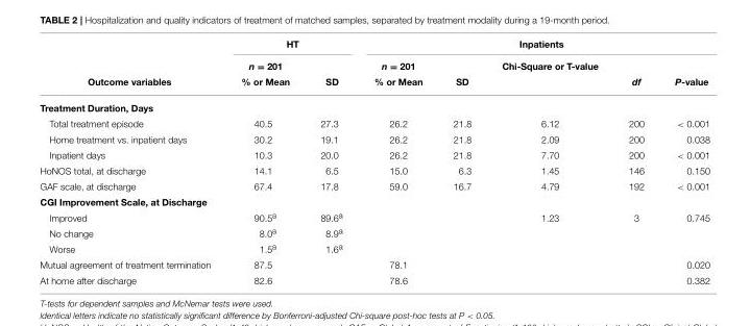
<table><thead><tr><td rowspan="3">Outcome variables</td><td colspan="2">HT</td><td colspan="5">Inpatients</td></tr><tr><td rowspan="2">n = 201 % or Mean</td><td rowspan="2">SD</td><td rowspan="2">n = 201 % or Mean</td><td rowspan="2">SD</td><td rowspan="2">Chi-Square or T-value</td><td rowspan="2">df</td><td rowspan="2">P-value</td></tr><tr></tr></thead><tbody><tr><td colspan="8">Treatment Duration, Days</td></tr><tr><td>Total treatment episode</td><td>40.5</td><td>27.3</td><td>26.2</td><td>21.8</td><td>6.12</td><td>200</td><td>&lt; 0.001</td></tr><tr><td>Home treatment vs. inpatient days</td><td>30.2</td><td>19.1</td><td>26.2</td><td>21.8</td><td>2.09</td><td>200</td><td>0.038</td></tr><tr><td>Inpatient days</td><td>10.3</td><td>20.0</td><td>26.2</td><td>21.8</td><td>7.70</td><td>200</td><td>&lt; 0.001</td></tr><tr><td>HoNOS total, at discharge</td><td>14.1</td><td>6.5</td><td>15.0</td><td>6.3</td><td>1.45</td><td>146</td><td>0.150</td></tr><tr><td>GAF scale, at discharge</td><td>67.4</td><td>17.8</td><td>59.0</td><td>16.7</td><td>4.79</td><td>192</td><td>&lt; 0.001</td></tr><tr><td colspan="8">CGI Improvement Scale, at Discharge</td></tr><tr><td>Improved</td><td>90.5<sup>a</sup></td><td>89.6<sup>a</sup></td><td></td><td></td><td>1.23</td><td>3</td><td>0.745</td></tr><tr><td>No change</td><td>8.0<sup>a</sup></td><td>8.9<sup>a</sup></td><td></td><td></td><td></td><td></td><td></td></tr><tr><td>Worse</td><td>1.5<sup>a</sup></td><td>1.6<sup>a</sup></td><td></td><td></td><td></td><td></td><td></td></tr><tr><td>Mutual agreement of treatment termination</td><td>87.5</td><td></td><td>78.1</td><td></td><td></td><td></td><td>0.020</td></tr><tr><td>At home after discharge</td><td>82.6</td><td></td><td>78.6</td><td></td><td></td><td></td><td>0.382</td></tr></tbody></table>